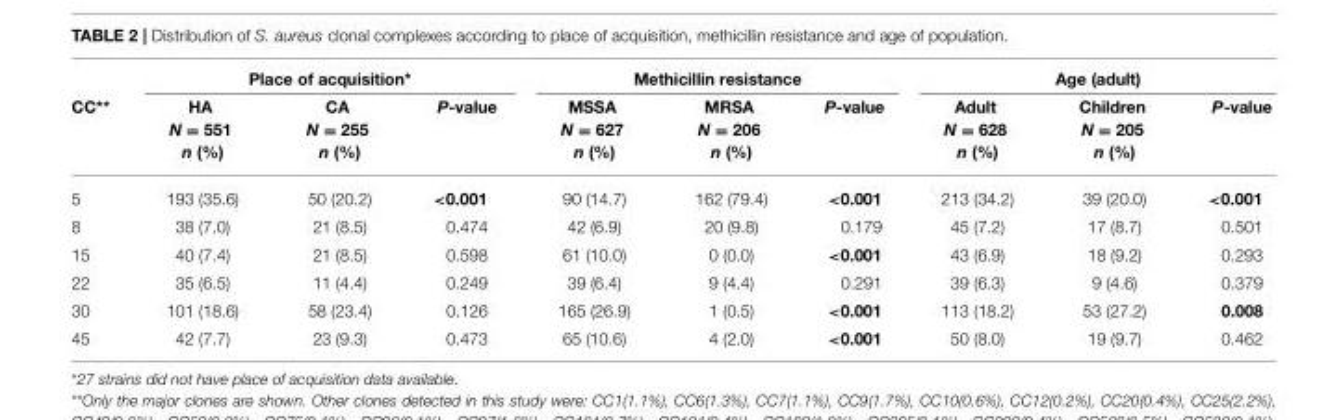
<table><thead><tr><td rowspan="2">CC**</td><td colspan="3">Place of acquisition*</td><td colspan="3">Methicillin resistance</td><td colspan="3">Age (adult)</td></tr><tr><td>HA N = 551 n (%)</td><td>CA N = 255 n (%)</td><td>P-value</td><td>MSSA N = 627 n (%)</td><td>MRSA N = 206 n (%)</td><td>P-value</td><td>Adult N = 628 n (%)</td><td>Children N = 205 n (%)</td><td>P-value</td></tr></thead><tbody><tr><td>5</td><td>193 (35.6)</td><td>50 (20.2)</td><td>&lt;0.001</td><td>90 (14.7)</td><td>162 (79.4)</td><td>&lt;0.001</td><td>213 (34.2)</td><td>39 (20.0)</td><td>&lt;0.001</td></tr><tr><td>8</td><td>38 (7.0)</td><td>21 (8.5)</td><td>0.474</td><td>42 (6.9)</td><td>20 (9.8)</td><td>0.179</td><td>45 (7.2)</td><td>17 (8.7)</td><td>0.501</td></tr><tr><td>15</td><td>40 (7.4)</td><td>21 (8.5)</td><td>0.598</td><td>61 (10.0)</td><td>0 (0.0)</td><td>&lt;0.001</td><td>43 (6.9)</td><td>18 (9.2)</td><td>0.293</td></tr><tr><td>22</td><td>35 (6.5)</td><td>11 (4.4)</td><td>0.249</td><td>39 (6.4)</td><td>9 (4.4)</td><td>0.291</td><td>39 (6.3)</td><td>9 (4.6)</td><td>0.379</td></tr><tr><td>30</td><td>101 (18.6)</td><td>58 (23.4)</td><td>0.126</td><td>165 (26.9)</td><td>1 (0.5)</td><td>&lt;0.001</td><td>113 (18.2)</td><td>53 (27.2)</td><td>0.008</td></tr><tr><td>45</td><td>42 (7.7)</td><td>23 (9.3)</td><td>0.473</td><td>65 (10.6)</td><td>4 (2.0)</td><td>&lt;0.001</td><td>50 (8.0)</td><td>19 (9.7)</td><td>0.462</td></tr></tbody></table>